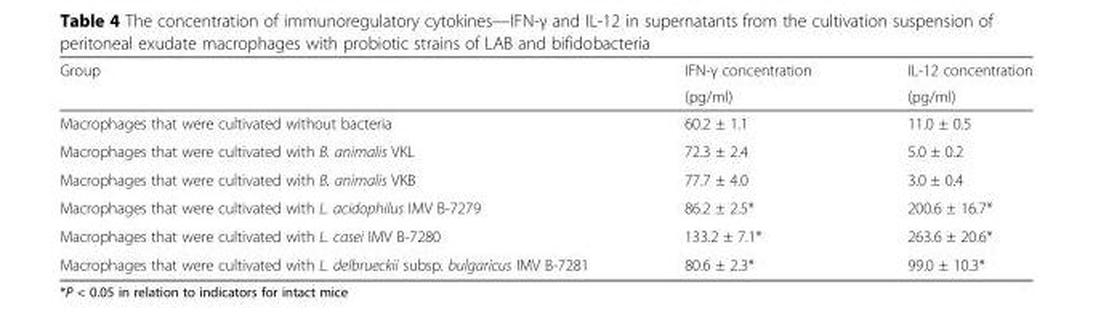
<table><thead><tr><td rowspan="2">Group</td><td rowspan="2">ІFN-γ concentration (pg/ml)</td><td rowspan="2">ІL-12 concentration (pg/ml)</td></tr><tr></tr></thead><tbody><tr><td>Macrophages that were cultivated without bacteria</td><td>60.2 ± 1.1</td><td>11.0 ± 0.5</td></tr><tr><td>Macrophages that were cultivated with B. animalis VKL</td><td>72.3 ± 2.4</td><td>5.0 ± 0.2</td></tr><tr><td>Macrophages that were cultivated with B. animalis VKB</td><td>77.7 ± 4.0</td><td>3.0 ± 0.4</td></tr><tr><td>Macrophages that were cultivated with L. acidophilus ІМV В-7279</td><td>86.2 ± 2.5*</td><td>200.6 ± 16.7*</td></tr><tr><td>Macrophages that were cultivated with L. casei ІМV В-7280</td><td>133.2 ± 7.1*</td><td>263.6 ± 20.6*</td></tr><tr><td>Macrophages that were cultivated with L. delbruеckii subsp. bulgaricus IMV В-7281</td><td>80.6 ± 2.3*</td><td>99.0 ± 10.3*</td></tr></tbody></table>